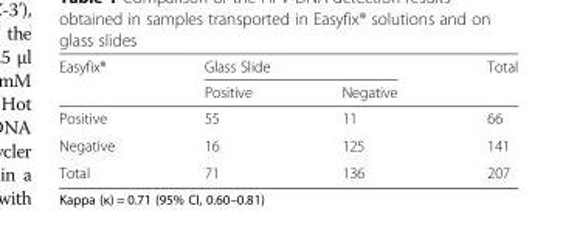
<table><thead><tr><td rowspan="2">Easyfix®</td><td colspan="2">Glass Slide</td><td rowspan="2">Total</td></tr><tr><td>Positive</td><td>Negative</td></tr></thead><tbody><tr><td>Positive</td><td>55</td><td>11</td><td>66</td></tr><tr><td>Negative</td><td>16</td><td>125</td><td>141</td></tr><tr><td>Total</td><td>71</td><td>136</td><td>207</td></tr></tbody></table>